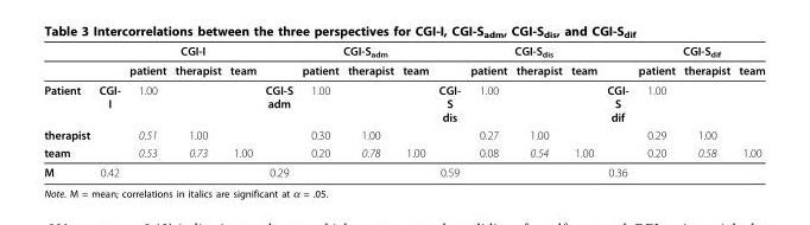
<table><thead><tr><td rowspan="2"></td><td rowspan="2"></td><td colspan="3">CGI-I</td><td rowspan="2"></td><td colspan="3">CGI-S<sub>adm</sub></td><td rowspan="2"></td><td colspan="3">CGI-S<sub>dis</sub></td><td rowspan="2"></td><td colspan="3">CGI-S<sub>dif</sub></td></tr><tr><td>patient</td><td>therapist</td><td>team</td><td>patient</td><td>therapist</td><td>team</td><td>patient</td><td>therapist</td><td>team</td><td>patient</td><td>therapist</td><td>team</td></tr></thead><tbody><tr><td>Patient</td><td>CGI- I</td><td>1.00</td><td></td><td></td><td>CGI-S adm</td><td>1.00</td><td></td><td></td><td>CGI- S dis</td><td>1.00</td><td></td><td></td><td>CGI- S dif</td><td>1.00</td><td></td><td></td></tr><tr><td>therapist</td><td></td><td>0.51</td><td>1.00</td><td></td><td></td><td>0.30</td><td>1.00</td><td></td><td></td><td>0.27</td><td>1.00</td><td></td><td></td><td>0.29</td><td>1.00</td><td></td></tr><tr><td>team</td><td></td><td>0.53</td><td>0.73</td><td>1.00</td><td></td><td>0.20</td><td>0.78</td><td>1.00</td><td></td><td>0.08</td><td>0.54</td><td>1.00</td><td></td><td>0.20</td><td>0.58</td><td>1.00</td></tr><tr><td>M</td><td>0.42</td><td></td><td></td><td></td><td>0.29</td><td></td><td></td><td></td><td>0.59</td><td></td><td></td><td></td><td>0.36</td><td></td><td></td><td></td></tr></tbody></table>